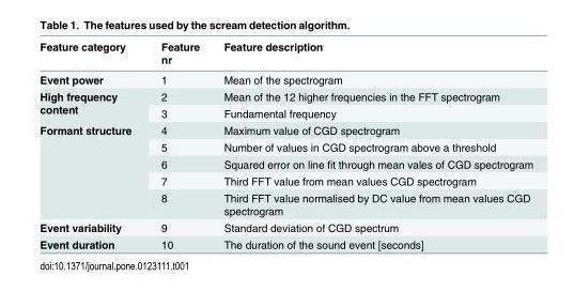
<table><thead><tr><td>Feature category</td><td>Feature nr</td><td>Feature description</td></tr></thead><tbody><tr><td>Event power</td><td>1</td><td>Mean of the spectrogram</td></tr><tr><td rowspan="2">High frequency content</td><td>2</td><td>Mean of the 12 higher frequencies in the FFT spectrogram</td></tr><tr><td>3</td><td>Fundamental frequency</td></tr><tr><td rowspan="5">Formant structure</td><td>4</td><td>Maximum value of CGD spectrogram</td></tr><tr><td>5</td><td>Number of values in CGD spectrogram above a threshold</td></tr><tr><td>6</td><td>Squared error on line fit through mean vales of CGD spectrogram</td></tr><tr><td>7</td><td>Third FFT value from mean values CGD spectrogram</td></tr><tr><td>8</td><td>Third FFT value normalised by DC value from mean values CGD spectrogram</td></tr><tr><td>Event variability</td><td>9</td><td>Standard deviation of CGD spectrum</td></tr><tr><td>Event duration</td><td>10</td><td>The duration of the sound event [seconds]</td></tr></tbody></table>